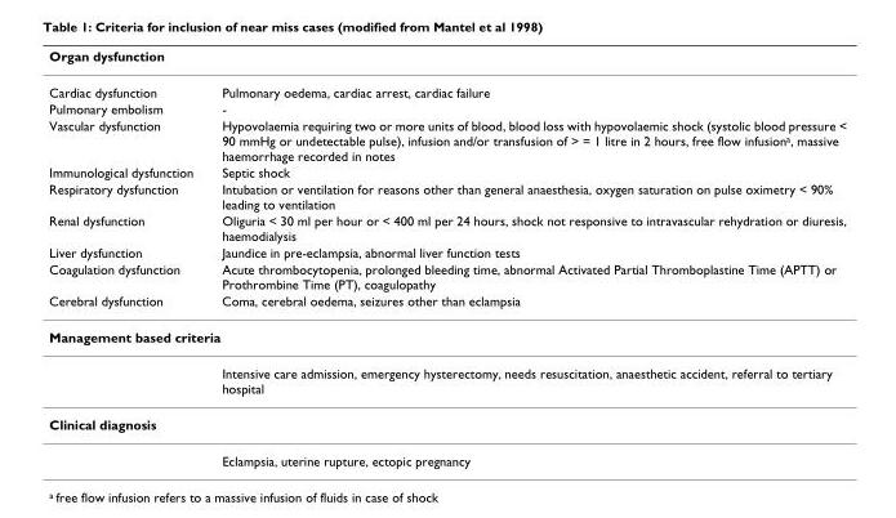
<table><thead><tr><td colspan="2">Organ dysfunction</td></tr><tr><td>Cardiac dysfunction</td><td>Pulmonary oedema, cardiac arrest, cardiac failure</td></tr></thead><tbody><tr><td>Pulmonary embolism</td><td>-</td></tr><tr><td>Vascular dysfunction</td><td>Hypovolaemia requiring two or more units of blood, blood loss with hypovolaemic shock (systolic blood pressure &lt; 90 mmHg or undetectable pulse), infusion and/or transfusion of &gt; = 1 litre in 2 hours, free flow infusion<sup>a</sup>, massive haemorrhage recorded in notes</td></tr><tr><td>Immunological dysfunction</td><td>Septic shock</td></tr><tr><td>Respiratory dysfunction</td><td>Intubation or ventilation for reasons other than general anaesthesia, oxygen saturation on pulse oximetry &lt; 90% leading to ventilation</td></tr><tr><td>Renal dysfunction</td><td>Oliguria &lt; 30 ml per hour or &lt; 400 ml per 24 hours, shock not responsive to intravascular rehydration or diuresis, haemodialysis</td></tr><tr><td>Liver dysfunction</td><td>Jaundice in pre-eclampsia, abnormal liver function tests</td></tr><tr><td>Coagulation dysfunction</td><td>Acute thrombocytopenia, prolonged bleeding time, abnormal Activated Partial Thromboplastine Time (APTT) or Prothrombine Time (PT), coagulopathy</td></tr><tr><td>Cerebral dysfunction</td><td>Coma, cerebral oedema, seizures other than eclampsia</td></tr><tr><td colspan="2">Management based criteria</td></tr><tr><td></td><td>Intensive care admission, emergency hysterectomy, needs resuscitation, anaesthetic accident, referral to tertiary hospital</td></tr><tr><td colspan="2">Clinical diagnosis</td></tr><tr><td></td><td>Eclampsia, uterine rupture, ectopic pregnancy</td></tr></tbody></table>